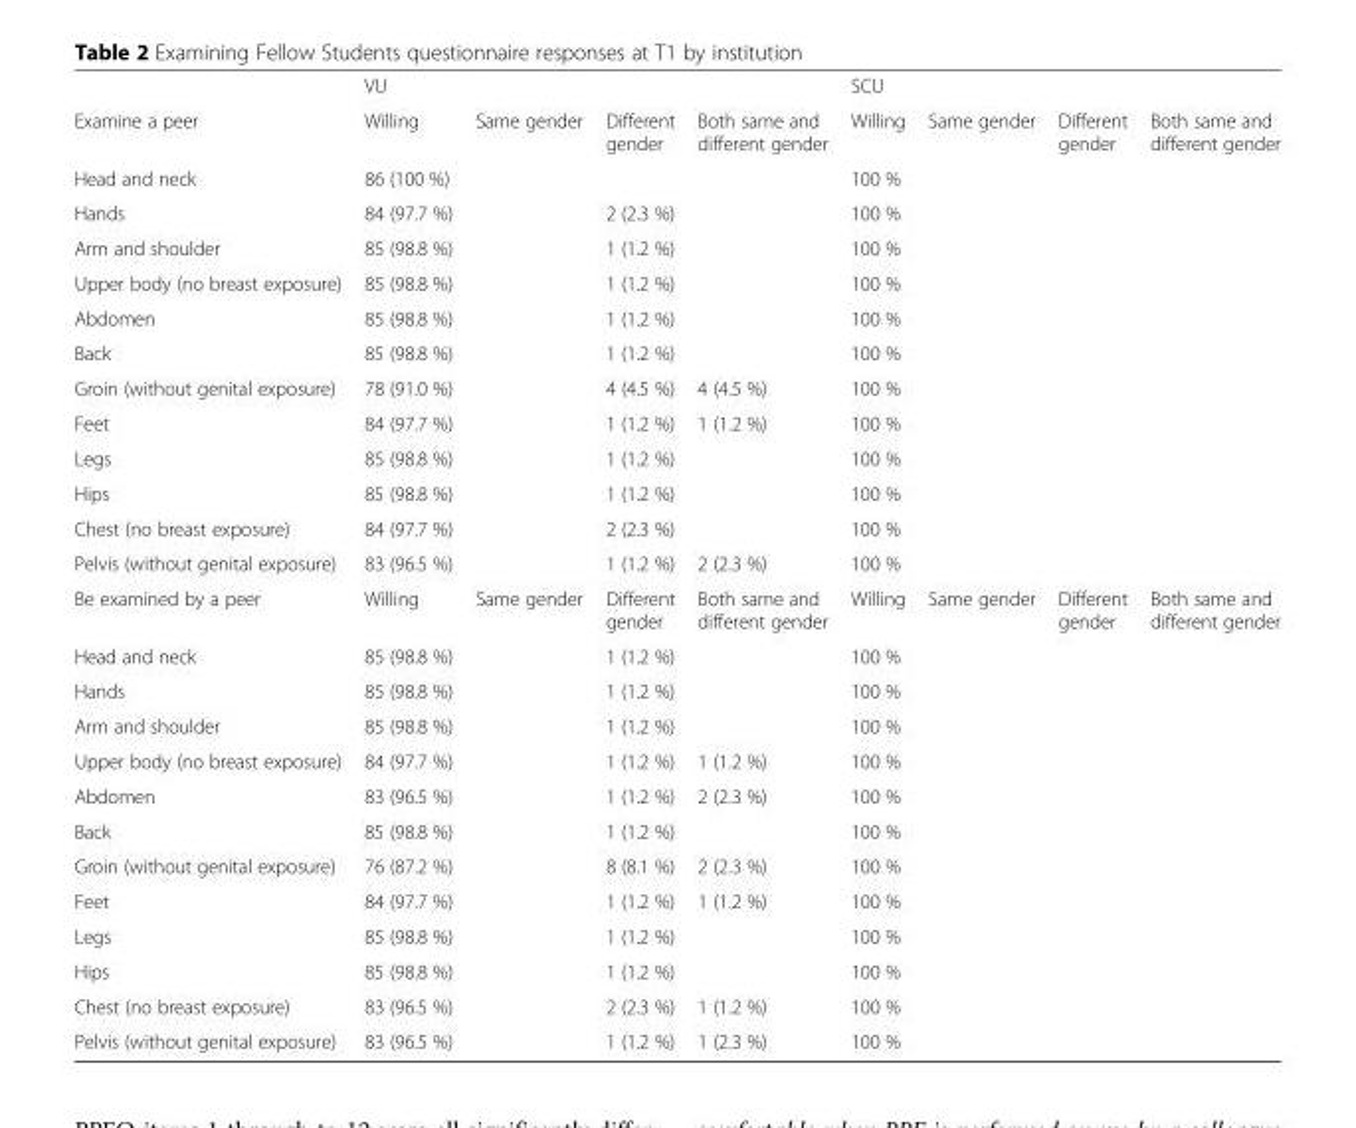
<table><thead><tr><td rowspan="2">Examine a peer</td><td colspan="4">VU</td><td colspan="4">SCU</td></tr><tr><td>Willing</td><td>Same gender</td><td>Different gender</td><td>Both same and different gender</td><td>Willing</td><td>Same gender</td><td>Different gender</td><td>Both same and different gender</td></tr></thead><tbody><tr><td>Head and neck</td><td>86 (100 %)</td><td></td><td></td><td></td><td>100 %</td><td></td><td></td><td></td></tr><tr><td>Hands</td><td>84 (97.7 %)</td><td></td><td>2 (2.3 %)</td><td></td><td>100 %</td><td></td><td></td><td></td></tr><tr><td>Arm and shoulder</td><td>85 (98.8 %)</td><td></td><td>1 (1.2 %)</td><td></td><td>100 %</td><td></td><td></td><td></td></tr><tr><td>Upper body (no breast exposure)</td><td>85 (98.8 %)</td><td></td><td>1 (1.2 %)</td><td></td><td>100 %</td><td></td><td></td><td></td></tr><tr><td>Abdomen</td><td>85 (98.8 %)</td><td></td><td>1 (1.2 %)</td><td></td><td>100 %</td><td></td><td></td><td></td></tr><tr><td>Back</td><td>85 (98.8 %)</td><td></td><td>1 (1.2 %)</td><td></td><td>100 %</td><td></td><td></td><td></td></tr><tr><td>Groin (without genital exposure)</td><td>78 (91.0 %)</td><td></td><td>4 (4.5 %)</td><td>4 (4.5 %)</td><td>100 %</td><td></td><td></td><td></td></tr><tr><td>Feet</td><td>84 (97.7 %)</td><td></td><td>1 (1.2 %)</td><td>1 (1.2 %)</td><td>100 %</td><td></td><td></td><td></td></tr><tr><td>Legs</td><td>85 (98.8 %)</td><td></td><td>1 (1.2 %)</td><td></td><td>100 %</td><td></td><td></td><td></td></tr><tr><td>Hips</td><td>85 (98.8 %)</td><td></td><td>1 (1.2 %)</td><td></td><td>100 %</td><td></td><td></td><td></td></tr><tr><td>Chest (no breast exposure)</td><td>84 (97.7 %)</td><td></td><td>2 (2.3 %)</td><td></td><td>100 %</td><td></td><td></td><td></td></tr><tr><td>Pelvis (without genital exposure)</td><td>83 (96.5 %)</td><td></td><td>1 (1.2 %)</td><td>2 (2.3 %)</td><td>100 %</td><td></td><td></td><td></td></tr><tr><td>Be examined by a peer</td><td>Willing</td><td>Same gender</td><td>Different gender</td><td>Both same and different gender</td><td>Willing</td><td>Same gender</td><td>Different gender</td><td>Both same and different gender</td></tr><tr><td>Head and neck</td><td>85 (98.8 %)</td><td></td><td>1 (1.2 %)</td><td></td><td>100 %</td><td></td><td></td><td></td></tr><tr><td>Hands</td><td>85 (98.8 %)</td><td></td><td>1 (1.2 %)</td><td></td><td>100 %</td><td></td><td></td><td></td></tr><tr><td>Arm and shoulder</td><td>85 (98.8 %)</td><td></td><td>1 (1.2 %)</td><td></td><td>100 %</td><td></td><td></td><td></td></tr><tr><td>Upper body (no breast exposure)</td><td>84 (97.7 %)</td><td></td><td>1 (1.2 %)</td><td>1 (1.2 %)</td><td>100 %</td><td></td><td></td><td></td></tr><tr><td>Abdomen</td><td>83 (96.5 %)</td><td></td><td>1 (1.2 %)</td><td>2 (2.3 %)</td><td>100 %</td><td></td><td></td><td></td></tr><tr><td>Back</td><td>85 (98.8 %)</td><td></td><td>1 (1.2 %)</td><td></td><td>100 %</td><td></td><td></td><td></td></tr><tr><td>Groin (without genital exposure)</td><td>76 (87.2 %)</td><td></td><td>8 (8.1 %)</td><td>2 (2.3 %)</td><td>100 %</td><td></td><td></td><td></td></tr><tr><td>Feet</td><td>84 (97.7 %)</td><td></td><td>1 (1.2 %)</td><td>1 (1.2 %)</td><td>100 %</td><td></td><td></td><td></td></tr><tr><td>Legs</td><td>85 (98.8 %)</td><td></td><td>1 (1.2 %)</td><td></td><td>100 %</td><td></td><td></td><td></td></tr><tr><td>Hips</td><td>85 (98.8 %)</td><td></td><td>1 (1.2 %)</td><td></td><td>100 %</td><td></td><td></td><td></td></tr><tr><td>Chest (no breast exposure)</td><td>83 (96.5 %)</td><td></td><td>2 (2.3 %)</td><td>1 (1.2 %)</td><td>100 %</td><td></td><td></td><td></td></tr><tr><td>Pelvis (without genital exposure)</td><td>83 (96.5 %)</td><td></td><td>1 (1.2 %)</td><td>1 (2.3 %)</td><td>100 %</td><td></td><td></td><td></td></tr></tbody></table>